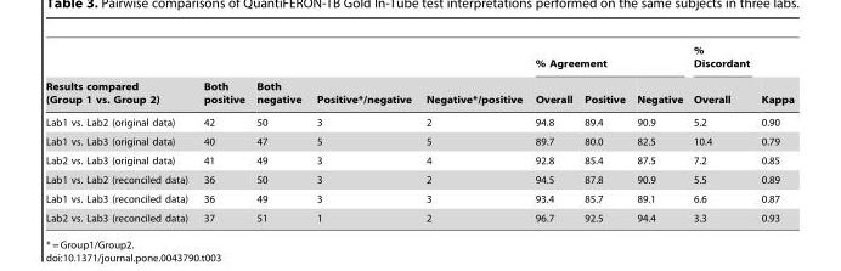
<table><thead><tr><td rowspan="2">Results compared (Group 1 vs. Group 2)</td><td rowspan="2">Both positive</td><td rowspan="2">Both negative</td><td rowspan="2">Positive*/negative</td><td rowspan="2">Negative*/positive</td><td colspan="3">% Agreement</td><td rowspan="2">% Discordant Overall</td><td rowspan="2">Kappa</td></tr><tr><td>Overall</td><td>Positive</td><td>Negative</td></tr></thead><tbody><tr><td>Lab1 vs. Lab2 (original data)</td><td>42</td><td>50</td><td>3</td><td>2</td><td>94.8</td><td>89.4</td><td>90.9</td><td>5.2</td><td>0.90</td></tr><tr><td>Lab1 vs. Lab3 (original data)</td><td>40</td><td>47</td><td>5</td><td>5</td><td>89.7</td><td>80.0</td><td>82.5</td><td>10.4</td><td>0.79</td></tr><tr><td>Lab2 vs. Lab3 (original data)</td><td>41</td><td>49</td><td>3</td><td>4</td><td>92.8</td><td>85.4</td><td>87.5</td><td>7.2</td><td>0.85</td></tr><tr><td>Lab1 vs. Lab2 (reconciled data)</td><td>36</td><td>50</td><td>3</td><td>2</td><td>94.5</td><td>87.8</td><td>90.9</td><td>5.5</td><td>0.89</td></tr><tr><td>Lab1 vs. Lab3 (reconciled data)</td><td>36</td><td>49</td><td>3</td><td>3</td><td>93.4</td><td>85.7</td><td>89.1</td><td>6.6</td><td>0.87</td></tr><tr><td>Lab2 vs. Lab3 (reconciled data)</td><td>37</td><td>51</td><td>1</td><td>2</td><td>96.7</td><td>92.5</td><td>94.4</td><td>3.3</td><td>0.93</td></tr></tbody></table>